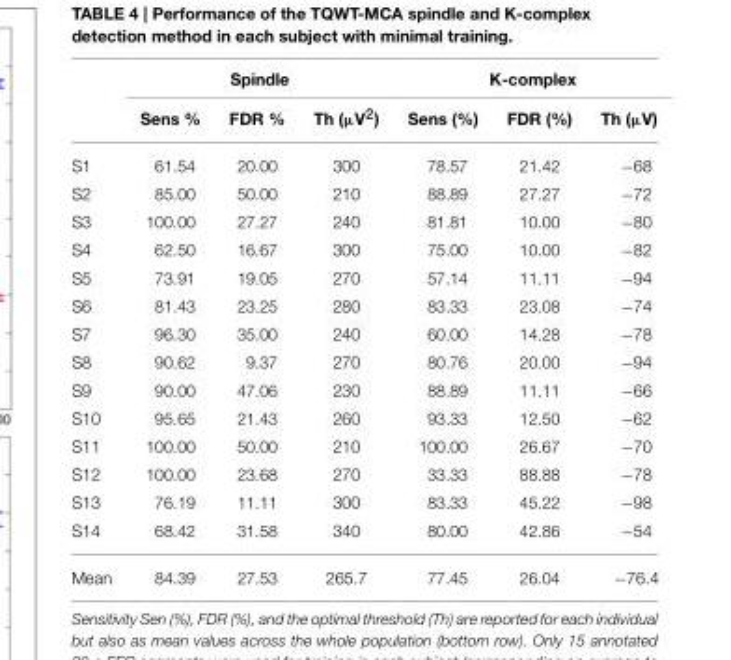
<table><thead><tr><td rowspan="2"></td><td colspan="3">Spindle</td><td colspan="3">K-complex</td></tr><tr><td>Sens %</td><td>FDR %</td><td>Th (µV<sup>2</sup>)</td><td>Sens (%)</td><td>FDR (%)</td><td>Th (µV)</td></tr></thead><tbody><tr><td>S1</td><td>61.54</td><td>20.00</td><td>300</td><td>78.57</td><td>21.42</td><td>−68</td></tr><tr><td>S2</td><td>85.00</td><td>50.00</td><td>210</td><td>88.89</td><td>27.27</td><td>−72</td></tr><tr><td>S3</td><td>100.00</td><td>27.27</td><td>240</td><td>81.81</td><td>10.00</td><td>−80</td></tr><tr><td>S4</td><td>62.50</td><td>16.67</td><td>300</td><td>75.00</td><td>10.00</td><td>−82</td></tr><tr><td>S5</td><td>73.91</td><td>19.05</td><td>270</td><td>57.14</td><td>11.11</td><td>−94</td></tr><tr><td>S6</td><td>81.43</td><td>23.25</td><td>280</td><td>83.33</td><td>23.08</td><td>−74</td></tr><tr><td>S7</td><td>96.30</td><td>35.00</td><td>240</td><td>60.00</td><td>14.28</td><td>−78</td></tr><tr><td>S8</td><td>90.62</td><td>9.37</td><td>270</td><td>80.76</td><td>20.00</td><td>−94</td></tr><tr><td>S9</td><td>90.00</td><td>47.06</td><td>230</td><td>88.89</td><td>11.11</td><td>−66</td></tr><tr><td>S10</td><td>95.65</td><td>21.43</td><td>260</td><td>93.33</td><td>12.50</td><td>−62</td></tr><tr><td>S11</td><td>100.00</td><td>50.00</td><td>210</td><td>100.00</td><td>26.67</td><td>−70</td></tr><tr><td>S12</td><td>100.00</td><td>23.68</td><td>270</td><td>33.33</td><td>88.88</td><td>−78</td></tr><tr><td>S13</td><td>76.19</td><td>11.11</td><td>300</td><td>83.33</td><td>45.22</td><td>−98</td></tr><tr><td>S14</td><td>68.42</td><td>31.58</td><td>340</td><td>80.00</td><td>42.86</td><td>−54</td></tr><tr><td>Mean</td><td>84.39</td><td>27.53</td><td>265.7</td><td>77.45</td><td>26.04</td><td>−76.4</td></tr></tbody></table>